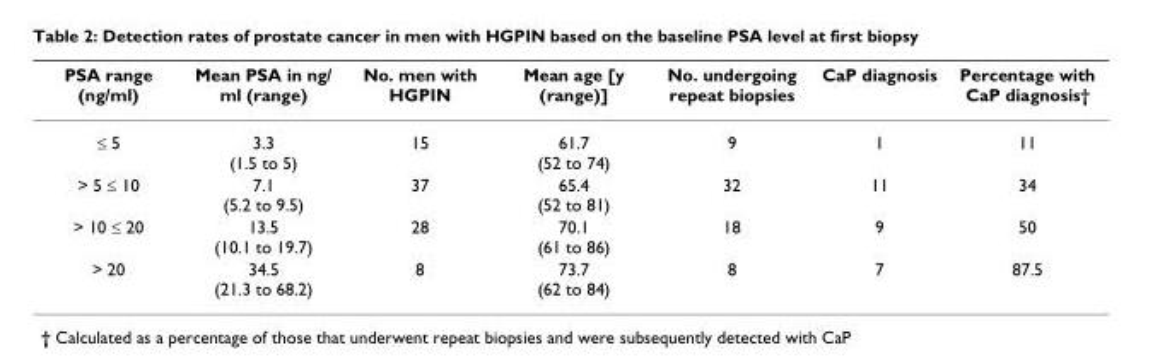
<table><thead><tr><td>PSA range (ng/ml)</td><td>Mean PSA in ng/ ml (range)</td><td>No. men with HGPIN</td><td>Mean age [y (range)]</td><td>No. undergoing repeat biopsies</td><td>CaP diagnosis</td><td>Percentage with CaP diagnosis†</td></tr></thead><tbody><tr><td>≤ 5</td><td>3.3 (1.5 to 5)</td><td>15</td><td>61.7 (52 to 74)</td><td>9</td><td>1</td><td>11</td></tr><tr><td>&gt; 5 ≤ 10</td><td>7.1 (5.2 to 9.5)</td><td>37</td><td>65.4 (52 to 81)</td><td>32</td><td>11</td><td>34</td></tr><tr><td>&gt; 10 ≤ 20</td><td>13.5 (10.1 to 19.7)</td><td>28</td><td>70.1 (61 to 86)</td><td>18</td><td>9</td><td>50</td></tr><tr><td>&gt; 20</td><td>34.5 (21.3 to 68.2)</td><td>8</td><td>73.7 (62 to 84)</td><td>8</td><td>7</td><td>87.5</td></tr></tbody></table>